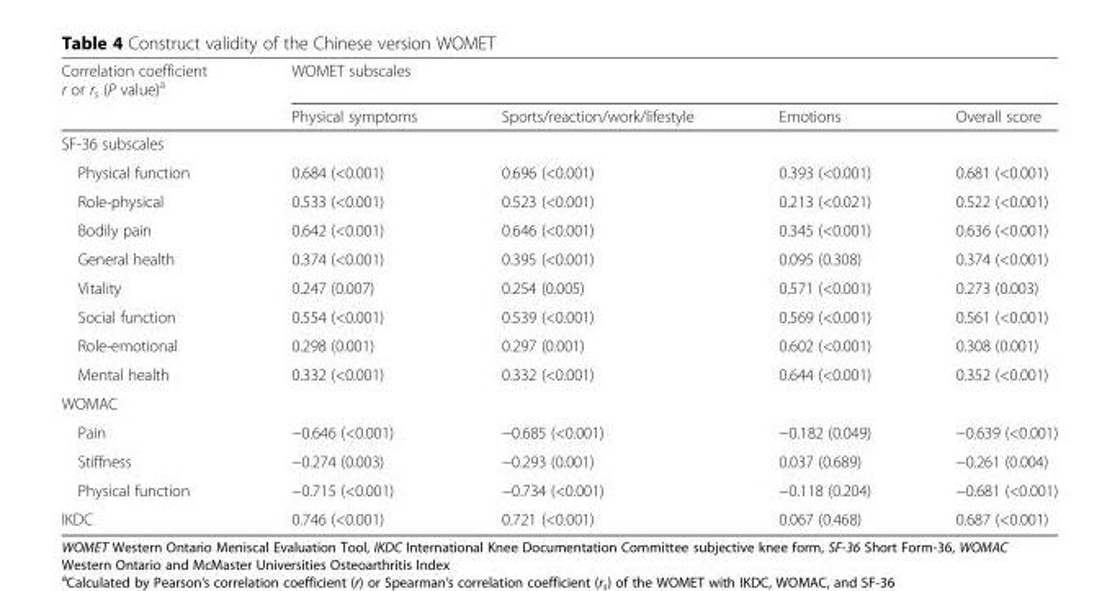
<table><thead><tr><td rowspan="2">Correlation coefficient r or r<sub>s</sub> (P value)<sup>a</sup></td><td colspan="4">WOMET subscales</td></tr><tr><td>Physical symptoms</td><td>Sports/reaction/work/lifestyle</td><td>Emotions</td><td>Overall score</td></tr></thead><tbody><tr><td colspan="5">SF-36 subscales</td></tr><tr><td>Physical function</td><td>0.684 (&lt;0.001)</td><td>0.696 (&lt;0.001)</td><td>0.393 (&lt;0.001)</td><td>0.681 (&lt;0.001)</td></tr><tr><td>Role-physical</td><td>0.533 (&lt;0.001)</td><td>0.523 (&lt;0.001)</td><td>0.213 (&lt;0.021)</td><td>0.522 (&lt;0.001)</td></tr><tr><td>Bodily pain</td><td>0.642 (&lt;0.001)</td><td>0.646 (&lt;0.001)</td><td>0.345 (&lt;0.001)</td><td>0.636 (&lt;0.001)</td></tr><tr><td>General health</td><td>0.374 (&lt;0.001)</td><td>0.395 (&lt;0.001)</td><td>0.095 (0.308)</td><td>0.374 (&lt;0.001)</td></tr><tr><td>Vitality</td><td>0.247 (0.007)</td><td>0.254 (0.005)</td><td>0.571 (&lt;0.001)</td><td>0.273 (0.003)</td></tr><tr><td>Social function</td><td>0.554 (&lt;0.001)</td><td>0.539 (&lt;0.001)</td><td>0.569 (&lt;0.001)</td><td>0.561 (&lt;0.001)</td></tr><tr><td>Role-emotional</td><td>0.298 (0.001)</td><td>0.297 (0.001)</td><td>0.602 (&lt;0.001)</td><td>0.308 (0.001)</td></tr><tr><td>Mental health</td><td>0.332 (&lt;0.001)</td><td>0.332 (&lt;0.001)</td><td>0.644 (&lt;0.001)</td><td>0.352 (&lt;0.001)</td></tr><tr><td colspan="5">WOMAC</td></tr><tr><td>Pain</td><td>−0.646 (&lt;0.001)</td><td>−0.685 (&lt;0.001)</td><td>−0.182 (0.049)</td><td>−0.639 (&lt;0.001)</td></tr><tr><td>Stiffness</td><td>−0.274 (0.003)</td><td>−0.293 (0.001)</td><td>0.037 (0.689)</td><td>−0.261 (0.004)</td></tr><tr><td>Physical function</td><td>−0.715 (&lt;0.001)</td><td>−0.734 (&lt;0.001)</td><td>−0.118 (0.204)</td><td>−0.681 (&lt;0.001)</td></tr><tr><td>IKDC</td><td>0.746 (&lt;0.001)</td><td>0.721 (&lt;0.001)</td><td>0.067 (0.468)</td><td>0.687 (&lt;0.001)</td></tr></tbody></table>